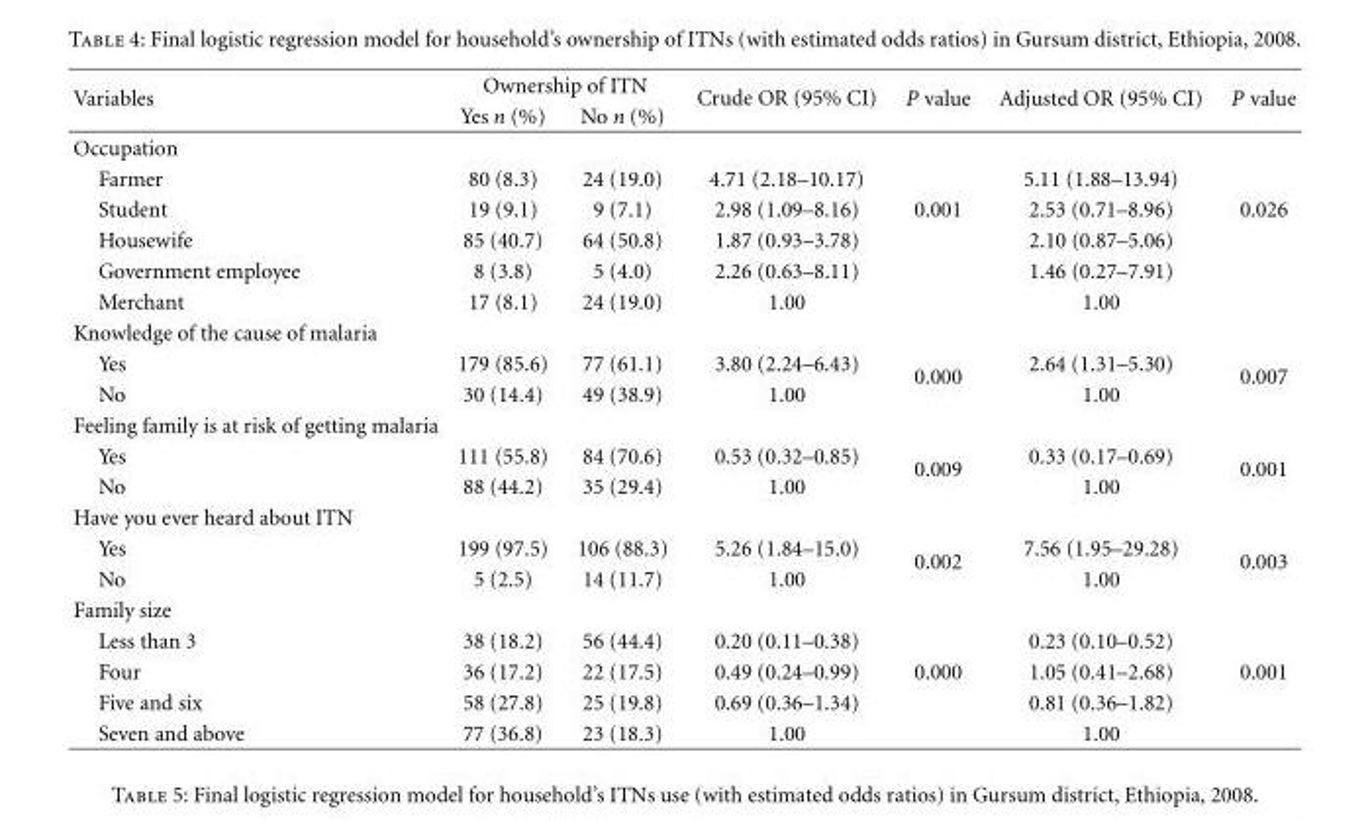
<table><thead><tr><td rowspan="2">Variables</td><td colspan="2">Ownership of ITN</td><td rowspan="2">Crude OR (95% CI)</td><td rowspan="2">P value</td><td rowspan="2">Adjusted OR (95% CI)</td><td rowspan="2">P value</td></tr><tr><td>Yes n (%)</td><td>No n (%)</td></tr></thead><tbody><tr><td colspan="7">Occupation</td></tr><tr><td>Farmer</td><td>80 (8.3)</td><td>24 (19.0)</td><td>4.71 (2.18–10.17)</td><td></td><td>5.11 (1.88–13.94)</td><td></td></tr><tr><td>Student</td><td>19 (9.1)</td><td>9 (7.1)</td><td>2.98 (1.09–8.16)</td><td>0.001</td><td>2.53 (0.71–8.96)</td><td>0.026</td></tr><tr><td>Housewife</td><td>85 (40.7)</td><td>64 (50.8)</td><td>1.87 (0.93–3.78)</td><td></td><td>2.10 (0.87–5.06)</td><td></td></tr><tr><td>Government employee</td><td>8 (3.8)</td><td>5 (4.0)</td><td>2.26 (0.63–8.11)</td><td></td><td>1.46 (0.27–7.91)</td><td></td></tr><tr><td>Merchant</td><td>17 (8.1)</td><td>24 (19.0)</td><td>1.00</td><td></td><td>1.00</td><td></td></tr><tr><td colspan="7">Knowledge of the cause of malaria</td></tr><tr><td>Yes</td><td>179 (85.6)</td><td>77 (61.1)</td><td>3.80 (2.24–6.43)</td><td rowspan="2">0.000</td><td>2.64 (1.31–5.30)</td><td rowspan="2">0.007</td></tr><tr><td>No</td><td>30 (14.4)</td><td>49 (38.9)</td><td>1.00</td><td>1.00</td></tr><tr><td colspan="7">Feeling family is at risk of getting malaria</td></tr><tr><td>Yes</td><td>111 (55.8)</td><td>84 (70.6)</td><td>0.53 (0.32–0.85)</td><td rowspan="2">0.009</td><td>0.33 (0.17–0.69)</td><td rowspan="2">0.001</td></tr><tr><td>No</td><td>88 (44.2)</td><td>35 (29.4)</td><td>1.00</td><td>1.00</td></tr><tr><td colspan="7">Have you ever heard about ITN</td></tr><tr><td>Yes</td><td>199 (97.5)</td><td>106 (88.3)</td><td>5.26 (1.84–15.0)</td><td rowspan="2">0.002</td><td>7.56 (1.95–29.28)</td><td rowspan="2">0.003</td></tr><tr><td>No</td><td>5 (2.5)</td><td>14 (11.7)</td><td>1.00</td><td>1.00</td></tr><tr><td colspan="7">Family size</td></tr><tr><td>Less than 3</td><td>38 (18.2)</td><td>56 (44.4)</td><td>0.20 (0.11–0.38)</td><td></td><td>0.23 (0.10–0.52)</td><td></td></tr><tr><td>Four</td><td>36 (17.2)</td><td>22 (17.5)</td><td>0.49 (0.24–0.99)</td><td>0.000</td><td>1.05 (0.41–2.68)</td><td>0.001</td></tr><tr><td>Five and six</td><td>58 (27.8)</td><td>25 (19.8)</td><td>0.69 (0.36–1.34)</td><td></td><td>0.81 (0.36–1.82)</td><td></td></tr><tr><td>Seven and above</td><td>77 (36.8)</td><td>23 (18.3)</td><td>1.00</td><td></td><td>1.00</td><td></td></tr></tbody></table>